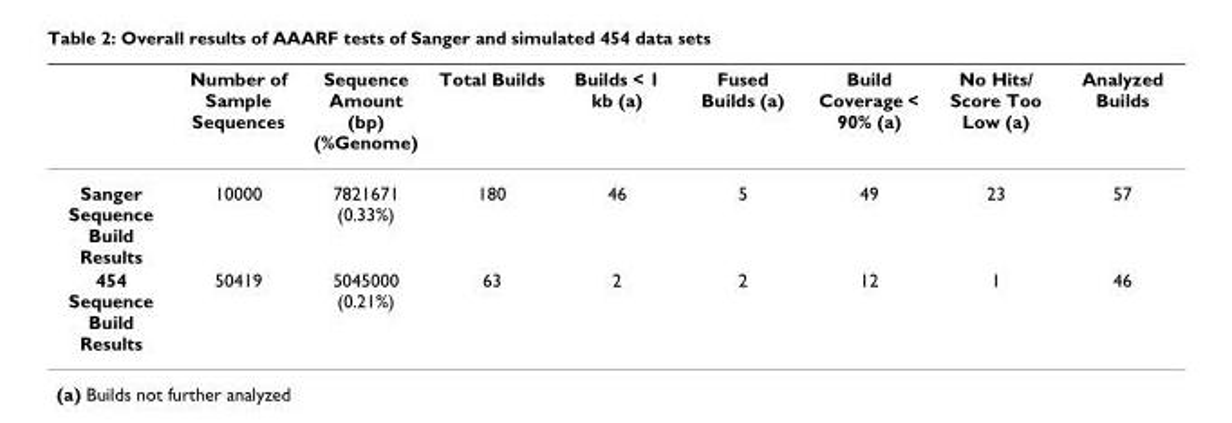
<table><thead><tr><td></td><td>Number of Sample Sequences</td><td>Sequence Amount (bp) (%Genome)</td><td>Total Builds</td><td>Builds &lt; 1 kb (a)</td><td>Fused Builds (a)</td><td>Build Coverage &lt; 90% (a)</td><td>No Hits/ Score Too Low (a)</td><td>Analyzed Builds</td></tr></thead><tbody><tr><td>Sanger Sequence Build Results</td><td>10000</td><td>7821671 (0.33%)</td><td>180</td><td>46</td><td>5</td><td>49</td><td>23</td><td>57</td></tr><tr><td>454 Sequence Build Results</td><td>50419</td><td>5045000 (0.21%)</td><td>63</td><td>2</td><td>2</td><td>12</td><td>1</td><td>46</td></tr></tbody></table>